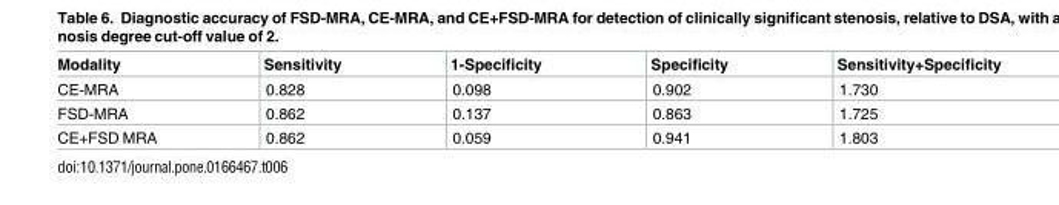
<table><thead><tr><td>Modality</td><td>Sensitivity</td><td>1-Specificity</td><td>Specificity</td><td>Sensitivity+Specificity</td></tr></thead><tbody><tr><td>CE-MRA</td><td>0.828</td><td>0.098</td><td>0.902</td><td>1.730</td></tr><tr><td>FSD-MRA</td><td>0.862</td><td>0.137</td><td>0.863</td><td>1.725</td></tr><tr><td>CE+FSD MRA</td><td>0.862</td><td>0.059</td><td>0.941</td><td>1.803</td></tr></tbody></table>